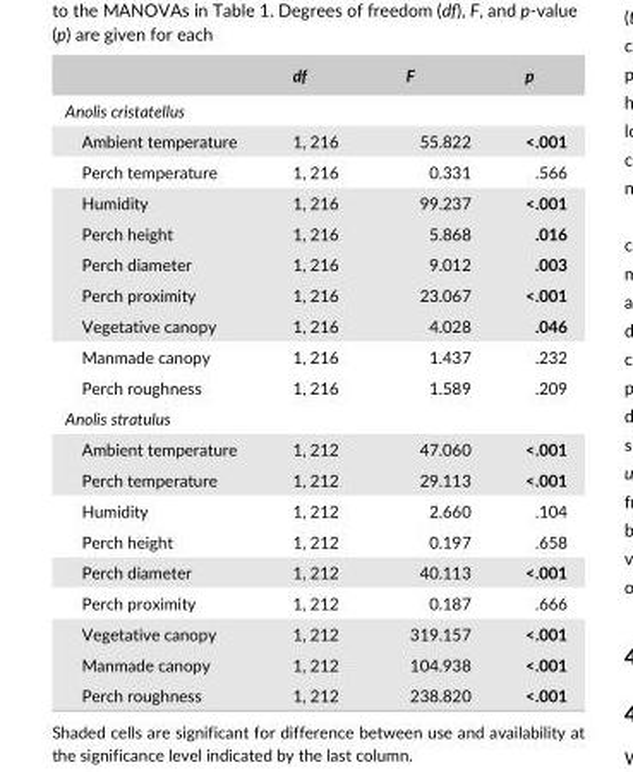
<table><thead><tr><td></td><td>df</td><td>F</td><td>p</td></tr></thead><tbody><tr><td colspan="4">Anolis cristatellus</td></tr><tr><td>Ambient temperature</td><td>1, 216</td><td>55.822</td><td>&lt;.001</td></tr><tr><td>Perch temperature</td><td>1, 216</td><td>0.331</td><td>.566</td></tr><tr><td>Humidity</td><td>1, 216</td><td>99.237</td><td>&lt;.001</td></tr><tr><td>Perch height</td><td>1, 216</td><td>5.868</td><td>.016</td></tr><tr><td>Perch diameter</td><td>1, 216</td><td>9.012</td><td>.003</td></tr><tr><td>Perch proximity</td><td>1, 216</td><td>23.067</td><td>&lt;.001</td></tr><tr><td>Vegetative canopy</td><td>1, 216</td><td>4.028</td><td>.046</td></tr><tr><td>Manmade canopy</td><td>1, 216</td><td>1.437</td><td>.232</td></tr><tr><td>Perch roughness</td><td>1, 216</td><td>1.589</td><td>.209</td></tr><tr><td colspan="4">Anolis stratulus</td></tr><tr><td>Ambient temperature</td><td>1, 212</td><td>47.060</td><td>&lt;.001</td></tr><tr><td>Perch temperature</td><td>1, 212</td><td>29.113</td><td>&lt;.001</td></tr><tr><td>Humidity</td><td>1, 212</td><td>2.660</td><td>.104</td></tr><tr><td>Perch height</td><td>1, 212</td><td>0.197</td><td>.658</td></tr><tr><td>Perch diameter</td><td>1, 212</td><td>40.113</td><td>&lt;.001</td></tr><tr><td>Perch proximity</td><td>1, 212</td><td>0.187</td><td>.666</td></tr><tr><td>Vegetative canopy</td><td>1, 212</td><td>319.157</td><td>&lt;.001</td></tr><tr><td>Manmade canopy</td><td>1, 212</td><td>104.938</td><td>&lt;.001</td></tr><tr><td>Perch roughness</td><td>1, 212</td><td>238.820</td><td>&lt;.001</td></tr></tbody></table>